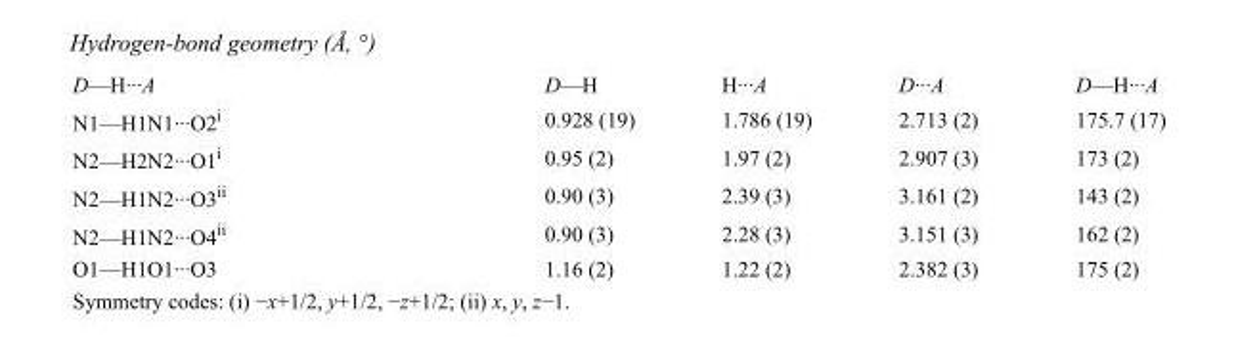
<table><tbody><tr><td>D—H···A</td><td>D—H</td><td>H···A</td><td>D···A</td><td>D—H···A</td></tr><tr><td>N1—H1N1···O2<sup>i</sup></td><td>0.928 (19)</td><td>1.786 (19)</td><td>2.713 (2)</td><td>175.7 (17)</td></tr><tr><td>N2—H2N2···O1<sup>i</sup></td><td>0.95 (2)</td><td>1.97 (2)</td><td>2.907 (3)</td><td>173 (2)</td></tr><tr><td>N2—H1N2···O3<sup>ii</sup></td><td>0.90 (3)</td><td>2.39 (3)</td><td>3.161 (2)</td><td>143 (2)</td></tr><tr><td>N2—H1N2···O4<sup>ii</sup></td><td>0.90 (3)</td><td>2.28 (3)</td><td>3.151 (3)</td><td>162 (2)</td></tr><tr><td>O1—H1O1···O3</td><td>1.16 (2)</td><td>1.22 (2)</td><td>2.382 (3)</td><td>175 (2)</td></tr></tbody></table>